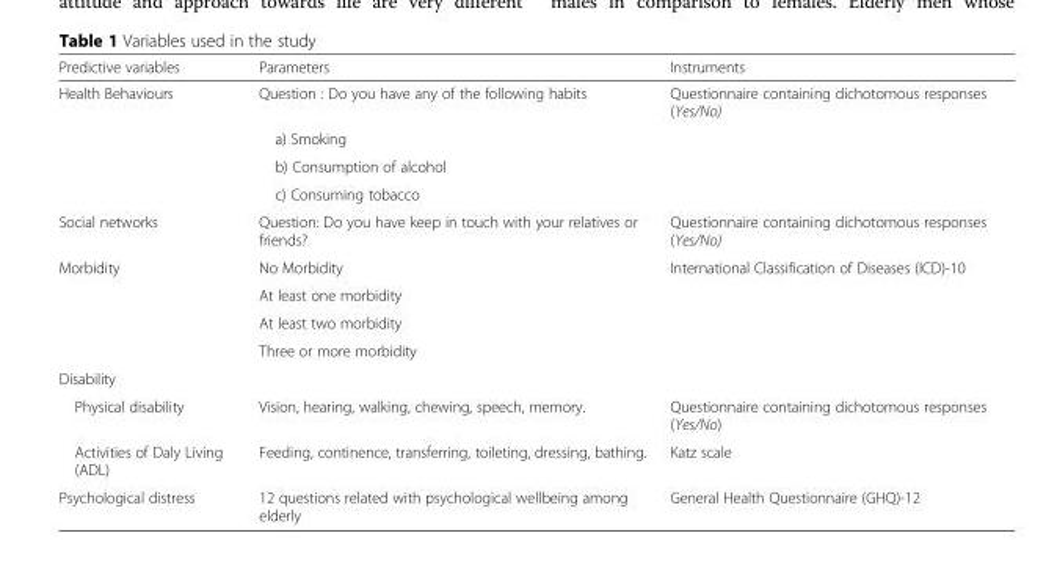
<table><thead><tr><td>Predictive variables</td><td>Parameters</td><td>Instruments</td></tr></thead><tbody><tr><td rowspan="4">Health Behaviours</td><td>Question : Do you have any of the following habits</td><td>Questionnaire containing dichotomous responses (Yes/No)</td></tr><tr><td>a) Smoking</td><td></td></tr><tr><td>b) Consumption of alcohol</td><td></td></tr><tr><td>c) Consuming tobacco</td><td></td></tr><tr><td>Social networks</td><td>Question: Do you have keep in touch with your relatives or friends?</td><td>Questionnaire containing dichotomous responses (Yes/No)</td></tr><tr><td rowspan="4">Morbidity</td><td>No Morbidity</td><td>International Classification of Diseases (ICD)-10</td></tr><tr><td>At least one morbidity</td><td></td></tr><tr><td>At least two morbidity</td><td></td></tr><tr><td>Three or more morbidity</td><td></td></tr><tr><td colspan="3">Disability</td></tr><tr><td>Physical disability</td><td>Vision, hearing, walking, chewing, speech, memory.</td><td>Questionnaire containing dichotomous responses (Yes/No)</td></tr><tr><td>Activities of Daly Living (ADL)</td><td>Feeding, continence, transferring, toileting, dressing, bathing.</td><td>Katz scale</td></tr><tr><td>Psychological distress</td><td>12 questions related with psychological wellbeing among elderly</td><td>General Health Questionnaire (GHQ)-12</td></tr></tbody></table>